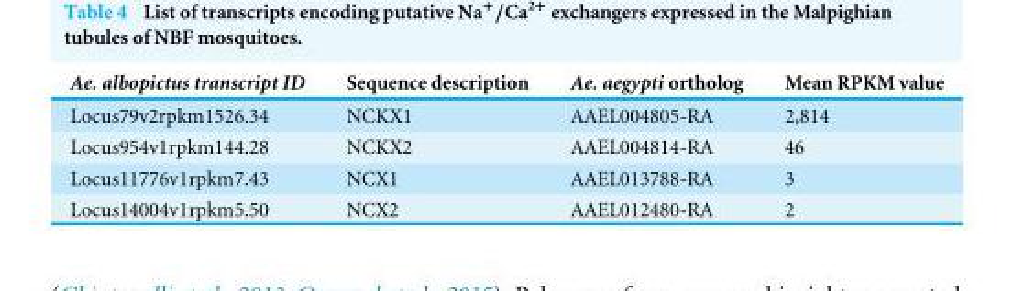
<table><thead><tr><td>Ae. albopictus transcript ID</td><td>Sequence description</td><td>Ae. aegypti ortholog</td><td>Mean RPKM value</td></tr></thead><tbody><tr><td>Locus79v2rpkm1526.34</td><td>NCKX1</td><td>AAEL004805-RA</td><td>2,814</td></tr><tr><td>Locus954v1rpkm144.28</td><td>NCKX2</td><td>AAEL004814-RA</td><td>46</td></tr><tr><td>Locus11776v1rpkm7.43</td><td>NCX1</td><td>AAEL013788-RA</td><td>3</td></tr><tr><td>Locus14004v1rpkm5.50</td><td>NCX2</td><td>AAEL012480-RA</td><td>2</td></tr></tbody></table>